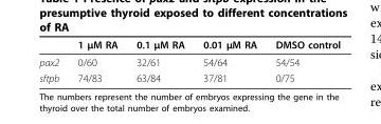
<table><thead><tr><td></td><td>1 μM RA</td><td>0.1 μM RA</td><td>0.01 μM RA</td><td>DMSO control</td></tr></thead><tbody><tr><td>pax2</td><td>0/60</td><td>32/61</td><td>54/64</td><td>54/54</td></tr><tr><td>sftpb</td><td>74/83</td><td>63/84</td><td>37/81</td><td>0/75</td></tr></tbody></table>